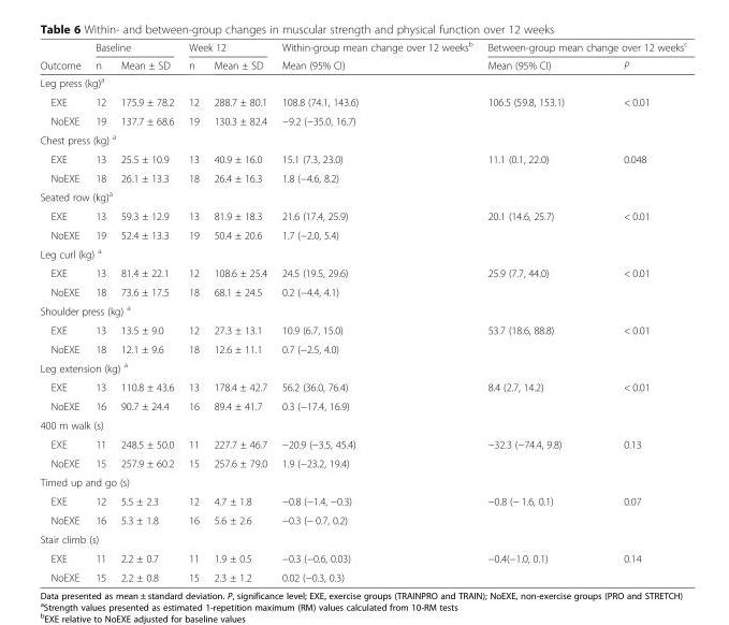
<table><thead><tr><td rowspan="2">Outcome</td><td colspan="2">Baseline</td><td colspan="2">Week 12</td><td rowspan="2">Within-group mean change over 12 weeks<sup>b</sup> Mean (95% CI)</td><td colspan="2">Between-group mean change over 12 weeks<sup>c</sup></td></tr><tr><td>n</td><td>Mean ± SD</td><td>n</td><td>Mean ± SD</td><td>Mean (95% CI)</td><td>P</td></tr></thead><tbody><tr><td colspan="8">Leg press (kg)<sup>a</sup></td></tr><tr><td>EXE</td><td>12</td><td>175.9 ± 78.2</td><td>12</td><td>288.7 ± 80.1</td><td>108.8 (74.1, 143.6)</td><td>106.5 (59.8, 153.1)</td><td>&lt; 0.01</td></tr><tr><td>NoEXE</td><td>19</td><td>137.7 ± 68.6</td><td>19</td><td>130.3 ± 82.4</td><td>−9.2 (−35.0, 16.7)</td><td></td><td></td></tr><tr><td colspan="8">Chest press (kg) <sup>a</sup></td></tr><tr><td>EXE</td><td>13</td><td>25.5 ± 10.9</td><td>13</td><td>40.9 ± 16.0</td><td>15.1 (7.3, 23.0)</td><td>11.1 (0.1, 22.0)</td><td>0.048</td></tr><tr><td>NoEXE</td><td>18</td><td>26.1 ± 13.3</td><td>18</td><td>26.4 ± 16.3</td><td>1.8 (−4.6, 8.2)</td><td></td><td></td></tr><tr><td colspan="8">Seated row (kg)<sup>a</sup></td></tr><tr><td>EXE</td><td>13</td><td>59.3 ± 12.9</td><td>13</td><td>81.9 ± 18.3</td><td>21.6 (17.4, 25.9)</td><td>20.1 (14.6, 25.7)</td><td>&lt; 0.01</td></tr><tr><td>NoEXE</td><td>19</td><td>52.4 ± 13.3</td><td>19</td><td>50.4 ± 20.6</td><td>1.7 (−2.0, 5.4)</td><td></td><td></td></tr><tr><td colspan="8">Leg curl (kg) <sup>a</sup></td></tr><tr><td>EXE</td><td>13</td><td>81.4 ± 22.1</td><td>12</td><td>108.6 ± 25.4</td><td>24.5 (19.5, 29.6)</td><td>25.9 (7.7, 44.0)</td><td>&lt; 0.01</td></tr><tr><td>NoEXE</td><td>18</td><td>73.6 ± 17.5</td><td>18</td><td>68.1 ± 24.5</td><td>0.2 (−4.4, 4.1)</td><td></td><td></td></tr><tr><td colspan="8">Shoulder press (kg) <sup>a</sup></td></tr><tr><td>EXE</td><td>13</td><td>13.5 ± 9.0</td><td>12</td><td>27.3 ± 13.1</td><td>10.9 (6.7, 15.0)</td><td>53.7 (18.6, 88.8)</td><td>&lt; 0.01</td></tr><tr><td>NoEXE</td><td>18</td><td>12.1 ± 9.6</td><td>18</td><td>12.6 ± 11.1</td><td>0.7 (−2.5, 4.0)</td><td></td><td></td></tr><tr><td colspan="8">Leg extension (kg) <sup>a</sup></td></tr><tr><td>EXE</td><td>13</td><td>110.8 ± 43.6</td><td>13</td><td>178.4 ± 42.7</td><td>56.2 (36.0, 76.4)</td><td>8.4 (2.7, 14.2)</td><td>&lt; 0.01</td></tr><tr><td>NoEXE</td><td>16</td><td>90.7 ± 24.4</td><td>16</td><td>89.4 ± 41.7</td><td>0.3 (−17.4, 16.9)</td><td></td><td></td></tr><tr><td colspan="8">400 m walk (s)</td></tr><tr><td>EXE</td><td>11</td><td>248.5 ± 50.0</td><td>11</td><td>227.7 ± 46.7</td><td>−20.9 (−3.5, 45.4)</td><td>−32.3 (−74.4, 9.8)</td><td>0.13</td></tr><tr><td>NoEXE</td><td>15</td><td>257.9 ± 60.2</td><td>15</td><td>257.6 ± 79.0</td><td>1.9 (−23.2, 19.4)</td><td></td><td></td></tr><tr><td colspan="8">Timed up and go (s)</td></tr><tr><td>EXE</td><td>12</td><td>5.5 ± 2.3</td><td>12</td><td>4.7 ± 1.8</td><td>−0.8 (−1.4, −0.3)</td><td>−0.8 (− 1.6, 0.1)</td><td>0.07</td></tr><tr><td>NoEXE</td><td>16</td><td>5.3 ± 1.8</td><td>16</td><td>5.6 ± 2.6</td><td>−0.3 (− 0.7, 0.2)</td><td></td><td></td></tr><tr><td colspan="8">Stair climb (s)</td></tr><tr><td>EXE</td><td>11</td><td>2.2 ± 0.7</td><td>11</td><td>1.9 ± 0.5</td><td>−0.3 (−0.6, 0.03)</td><td>−0.4(−1.0, 0.1)</td><td>0.14</td></tr><tr><td>NoEXE</td><td>15</td><td>2.2 ± 0.8</td><td>15</td><td>2.3 ± 1.2</td><td>0.02 (−0.3, 0.3)</td><td></td><td></td></tr></tbody></table>